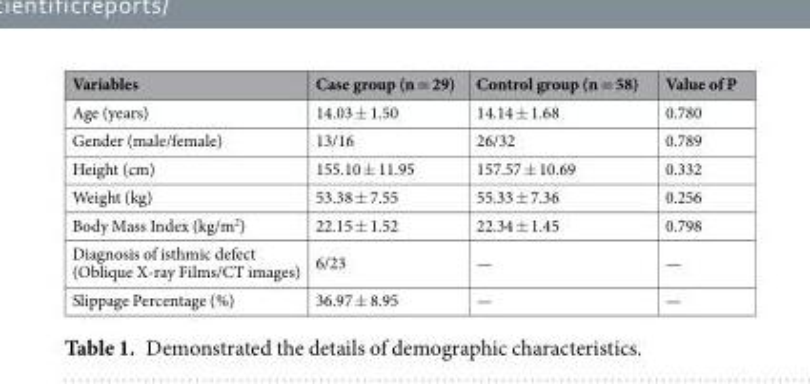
<table><thead><tr><td>Variables</td><td>Case group (n = 29)</td><td>Control group (n = 58)</td><td>Value of P</td></tr></thead><tbody><tr><td>Age (years)</td><td>14.03 ± 1.50</td><td>14.14 ± 1.68</td><td>0.780</td></tr><tr><td>Gender (male/female)</td><td>13/16</td><td>26/32</td><td>0.789</td></tr><tr><td>Height (cm)</td><td>155.10 ± 11.95</td><td>157.57 ± 10.69</td><td>0.332</td></tr><tr><td>Weight (kg)</td><td>53.38 ± 7.55</td><td>55.33 ± 7.36</td><td>0.256</td></tr><tr><td>Body Mass Index (kg/m<sup>2</sup>)</td><td>22.15 ± 1.52</td><td>22.34 ± 1.45</td><td>0.798</td></tr><tr><td>Diagnosis of isthmic defect (Oblique X-ray Films/CT images)</td><td>6/23</td><td>—</td><td>—</td></tr><tr><td>Slippage Percentage (%)</td><td>36.97 ± 8.95</td><td>—</td><td>—</td></tr></tbody></table>